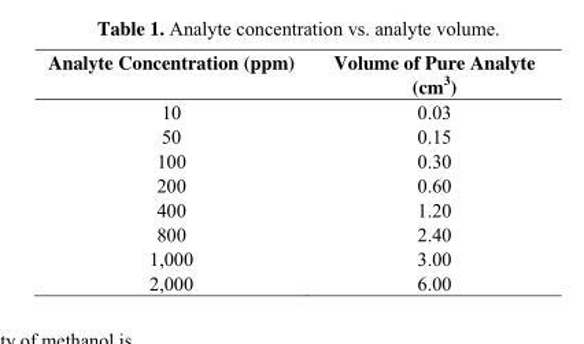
<table><thead><tr><td>Analyte Concentration (ppm)</td><td>Volume of Pure Analyte (cm<sup>3</sup>)</td></tr></thead><tbody><tr><td>10</td><td>0.03</td></tr><tr><td>50</td><td>0.15</td></tr><tr><td>100</td><td>0.30</td></tr><tr><td>200</td><td>0.60</td></tr><tr><td>400</td><td>1.20</td></tr><tr><td>800</td><td>2.40</td></tr><tr><td>1,000</td><td>3.00</td></tr><tr><td>2,000</td><td>6.00</td></tr></tbody></table>